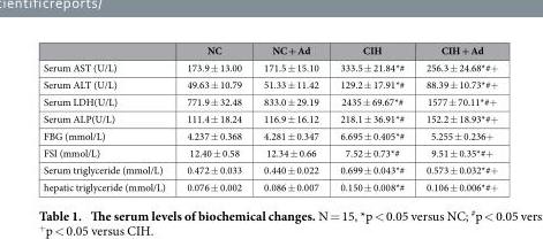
<table><thead><tr><td></td><td>NC</td><td>NC + Ad</td><td>CIH</td><td>CIH + Ad</td></tr></thead><tbody><tr><td>Serum AST (U/L)</td><td>173.9 ± 13.00</td><td>171.5 ± 15.10</td><td>333.5 ± 21.84*#</td><td>256.3 ± 24.68*#+</td></tr><tr><td>Serum ALT (U/L)</td><td>49.63 ± 10.79</td><td>51.33 ± 11.42</td><td>129.2 ± 17.91*#</td><td>88.39 ± 10.73*#+</td></tr><tr><td>Serum LDH(U/L)</td><td>771.9 ± 32.48</td><td>833.0 ± 29.19</td><td>2435 ± 69.67*#</td><td>1577 ± 70.11*#+</td></tr><tr><td>Serum ALP(U/L)</td><td>111.4 ± 18.24</td><td>116.9 ± 16.12</td><td>218.1 ± 36.91*#</td><td>152.2 ± 18.93*#+</td></tr><tr><td>FBG (mmol/L)</td><td>4.237 ± 0.368</td><td>4.281 ± 0.347</td><td>6.695 ± 0.405*#</td><td>5.255 ± 0.236+</td></tr><tr><td>FSI (mmol/L)</td><td>12.40 ± 0.58</td><td>12.34 ± 0.66</td><td>7.52 ± 0.73*#</td><td>9.51 ± 0.35*#+</td></tr><tr><td>Serum triglyceride (mmol/L)</td><td>0.472 ± 0.033</td><td>0.440 ± 0.022</td><td>0.699 ± 0.043*#</td><td>0.573 ± 0.032*#+</td></tr><tr><td>hepatic triglyceride (mmol/L)</td><td>0.076 ± 0.002</td><td>0.086 ± 0.007</td><td>0.150 ± 0.008*#</td><td>0.106 ± 0.006*#+</td></tr></tbody></table>